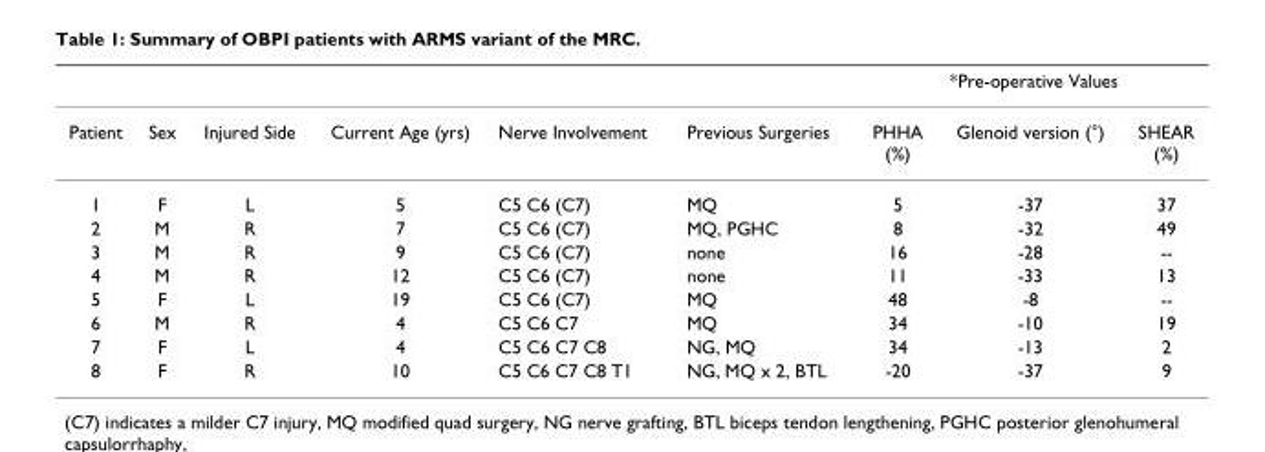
<table><thead><tr><td rowspan="2">Patient</td><td rowspan="2">Sex</td><td rowspan="2">Injured Side</td><td rowspan="2">Current Age (yrs)</td><td rowspan="2">Nerve Involvement</td><td rowspan="2">Previous Surgeries</td><td colspan="3">*Pre-operative Values</td></tr><tr><td>PHHA (%)</td><td>Glenoid version (°)</td><td>SHEAR (%)</td></tr></thead><tbody><tr><td>1</td><td>F</td><td>L</td><td>5</td><td>C5 C6 (C7)</td><td>MQ</td><td>5</td><td>-37</td><td>37</td></tr><tr><td>2</td><td>M</td><td>R</td><td>7</td><td>C5 C6 (C7)</td><td>MQ, PGHC</td><td>8</td><td>-32</td><td>49</td></tr><tr><td>3</td><td>M</td><td>R</td><td>9</td><td>C5 C6 (C7)</td><td>none</td><td>16</td><td>-28</td><td>--</td></tr><tr><td>4</td><td>M</td><td>R</td><td>12</td><td>C5 C6 (C7)</td><td>none</td><td>11</td><td>-33</td><td>13</td></tr><tr><td>5</td><td>F</td><td>L</td><td>19</td><td>C5 C6 (C7)</td><td>MQ</td><td>48</td><td>-8</td><td>--</td></tr><tr><td>6</td><td>M</td><td>R</td><td>4</td><td>C5 C6 C7</td><td>MQ</td><td>34</td><td>-10</td><td>19</td></tr><tr><td>7</td><td>F</td><td>L</td><td>4</td><td>C5 C6 C7 C8</td><td>NG, MQ</td><td>34</td><td>-13</td><td>2</td></tr><tr><td>8</td><td>F</td><td>R</td><td>10</td><td>C5 C6 C7 C8 T1</td><td>NG, MQ x 2, BTL</td><td>-20</td><td>-37</td><td>9</td></tr></tbody></table>